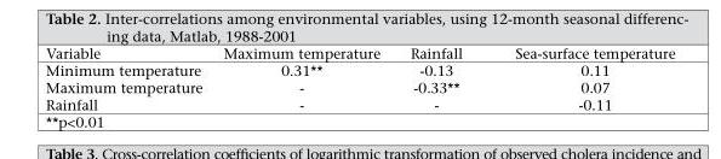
<table><thead><tr><td>Variable</td><td>Maximum temperature</td><td>Rainfall</td><td>Sea-surface temperature</td></tr></thead><tbody><tr><td>Minimum temperature</td><td>0.31**</td><td>-0.13</td><td>0.11</td></tr><tr><td>Maximum temperature</td><td>-</td><td>-0.33**</td><td>0.07</td></tr><tr><td>Rainfall</td><td>-</td><td>-</td><td>-0.11</td></tr></tbody></table>